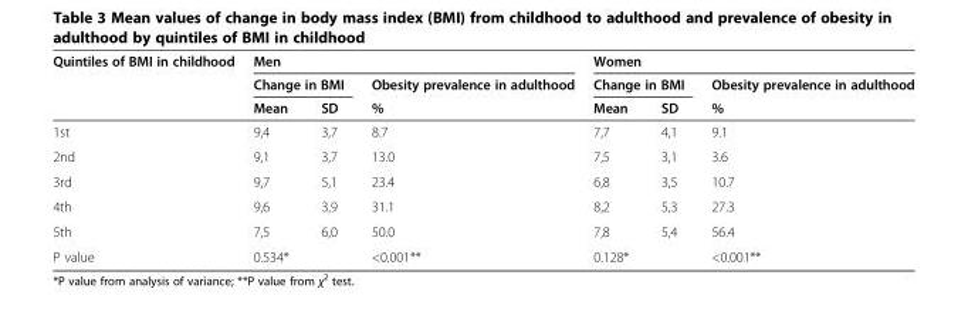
<table><thead><tr><td rowspan="3">Quintiles of BMI in childhood</td><td colspan="3">Men</td><td colspan="3">Women</td></tr><tr><td colspan="2">Change in BMI</td><td rowspan="2">Obesity prevalence in adulthood %</td><td colspan="2">Change in BMI</td><td rowspan="2">Obesity prevalence in adulthood %</td></tr><tr><td>Mean</td><td>SD</td><td>Mean</td><td>SD</td></tr></thead><tbody><tr><td>1st</td><td>9,4</td><td>3,7</td><td>8.7</td><td>7,7</td><td>4,1</td><td>9.1</td></tr><tr><td>2nd</td><td>9,1</td><td>3,7</td><td>13.0</td><td>7,5</td><td>3,1</td><td>3.6</td></tr><tr><td>3rd</td><td>9,7</td><td>5,1</td><td>23.4</td><td>6,8</td><td>3,5</td><td>10.7</td></tr><tr><td>4th</td><td>9,6</td><td>3,9</td><td>31.1</td><td>8,2</td><td>5,3</td><td>27.3</td></tr><tr><td>5th</td><td>7,5</td><td>6,0</td><td>50.0</td><td>7,8</td><td>5,4</td><td>56.4</td></tr><tr><td>P value</td><td colspan="2">0.534*</td><td>&lt;0.001**</td><td colspan="2">0.128*</td><td>&lt;0.001**</td></tr></tbody></table>